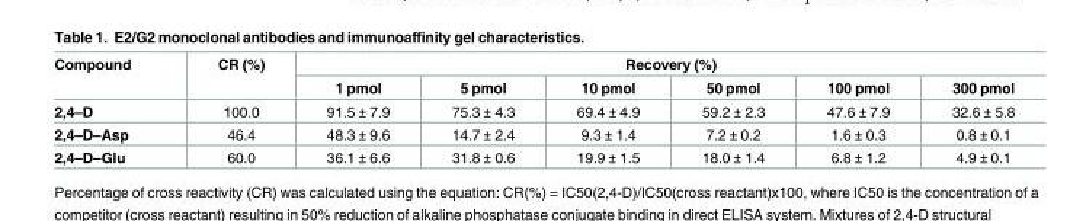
<table><thead><tr><td rowspan="2">Compound</td><td rowspan="2">CR (%)</td><td colspan="6">Recovery (%)</td></tr><tr><td>1 pmol</td><td>5 pmol</td><td>10 pmol</td><td>50 pmol</td><td>100 pmol</td><td>300 pmol</td></tr></thead><tbody><tr><td>2,4–D</td><td>100.0</td><td>91.5 ± 7.9</td><td>75.3 ± 4.3</td><td>69.4 ± 4.9</td><td>59.2 ± 2.3</td><td>47.6 ± 7.9</td><td>32.6 ± 5.8</td></tr><tr><td>2,4–D–Asp</td><td>46.4</td><td>48.3 ± 9.6</td><td>14.7 ± 2.4</td><td>9.3 ± 1.4</td><td>7.2 ± 0.2</td><td>1.6 ± 0.3</td><td>0.8 ± 0.1</td></tr><tr><td>2,4–D–Glu</td><td>60.0</td><td>36.1 ± 6.6</td><td>31.8 ± 0.6</td><td>19.9 ± 1.5</td><td>18.0 ± 1.4</td><td>6.8 ± 1.2</td><td>4.9 ± 0.1</td></tr></tbody></table>